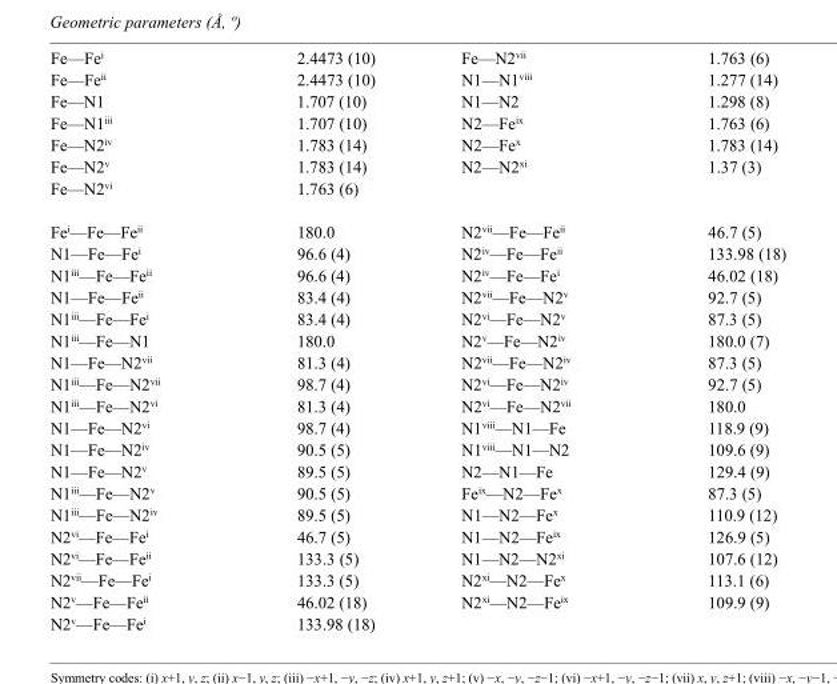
<table><tbody><tr><td>Fe—Fe<sup>i</sup></td><td>2.4473 (10)</td><td>Fe—N2<sup>vii</sup></td><td>1.763 (6)</td></tr><tr><td>Fe—Fe<sup>ii</sup></td><td>2.4473 (10)</td><td>N1—N1<sup>viii</sup></td><td>1.277 (14)</td></tr><tr><td>Fe—N1</td><td>1.707 (10)</td><td>N1—N2</td><td>1.298 (8)</td></tr><tr><td>Fe—N1<sup>iii</sup></td><td>1.707 (10)</td><td>N2—Fe<sup>ix</sup></td><td>1.763 (6)</td></tr><tr><td>Fe—N2<sup>iv</sup></td><td>1.783 (14)</td><td>N2—Fe<sup>x</sup></td><td>1.783 (14)</td></tr><tr><td>Fe—N2<sup>v</sup></td><td>1.783 (14)</td><td>N2—N2<sup>xi</sup></td><td>1.37 (3)</td></tr><tr><td>Fe—N2<sup>vi</sup></td><td>1.763 (6)</td><td></td><td></td></tr><tr><td>Fe<sup>i</sup>—Fe—Fe<sup>ii</sup></td><td>180.0</td><td>N2<sup>vii</sup>—Fe—Fe<sup>ii</sup></td><td>46.7 (5)</td></tr><tr><td>N1—Fe—Fe<sup>i</sup></td><td>96.6 (4)</td><td>N2<sup>iv</sup>—Fe—Fe<sup>ii</sup></td><td>133.98 (18)</td></tr><tr><td>N1<sup>iii</sup>—Fe—Fe<sup>ii</sup></td><td>96.6 (4)</td><td>N2<sup>iv</sup>—Fe—Fe<sup>i</sup></td><td>46.02 (18)</td></tr><tr><td>N1—Fe—Fe<sup>ii</sup></td><td>83.4 (4)</td><td>N2<sup>vii</sup>—Fe—N2<sup>v</sup></td><td>92.7 (5)</td></tr><tr><td>N1<sup>iii</sup>—Fe—Fe<sup>i</sup></td><td>83.4 (4)</td><td>N2<sup>vi</sup>—Fe—N2<sup>v</sup></td><td>87.3 (5)</td></tr><tr><td>N1<sup>iii</sup>—Fe—N1</td><td>180.0</td><td>N2<sup>v</sup>—Fe—N2<sup>iv</sup></td><td>180.0 (7)</td></tr><tr><td>N1—Fe—N2<sup>vii</sup></td><td>81.3 (4)</td><td>N2<sup>vii</sup>—Fe—N2<sup>iv</sup></td><td>87.3 (5)</td></tr><tr><td>N1<sup>iii</sup>—Fe—N2<sup>vii</sup></td><td>98.7 (4)</td><td>N2<sup>vi</sup>—Fe—N2<sup>iv</sup></td><td>92.7 (5)</td></tr><tr><td>N1<sup>iii</sup>—Fe—N2<sup>vi</sup></td><td>81.3 (4)</td><td>N2<sup>vi</sup>—Fe—N2<sup>vii</sup></td><td>180.0</td></tr><tr><td>N1—Fe—N2<sup>vi</sup></td><td>98.7 (4)</td><td>N1<sup>viii</sup>—N1—Fe</td><td>118.9 (9)</td></tr><tr><td>N1—Fe—N2<sup>iv</sup></td><td>90.5 (5)</td><td>N1<sup>viii</sup>—N1—N2</td><td>109.6 (9)</td></tr><tr><td>N1—Fe—N2<sup>v</sup></td><td>89.5 (5)</td><td>N2—N1—Fe</td><td>129.4 (9)</td></tr><tr><td>N1<sup>iii</sup>—Fe—N2<sup>v</sup></td><td>90.5 (5)</td><td>Fe<sup>ix</sup>—N2—Fe<sup>x</sup></td><td>87.3 (5)</td></tr><tr><td>N1<sup>iii</sup>—Fe—N2<sup>iv</sup></td><td>89.5 (5)</td><td>N1—N2—Fe<sup>x</sup></td><td>110.9 (12)</td></tr><tr><td>N2<sup>vi</sup>—Fe—Fe<sup>i</sup></td><td>46.7 (5)</td><td>N1—N2—Fe<sup>ix</sup></td><td>126.9 (5)</td></tr><tr><td>N2<sup>vi</sup>—Fe—Fe<sup>ii</sup></td><td>133.3 (5)</td><td>N1—N2—N2<sup>xi</sup></td><td>107.6 (12)</td></tr><tr><td>N2<sup>vii</sup>—Fe—Fe<sup>i</sup></td><td>133.3 (5)</td><td>N2<sup>xi</sup>—N2—Fe<sup>x</sup></td><td>113.1 (6)</td></tr><tr><td>N2<sup>v</sup>—Fe—Fe<sup>ii</sup></td><td>46.02 (18)</td><td>N2<sup>xi</sup>—N2—Fe<sup>ix</sup></td><td>109.9 (9)</td></tr><tr><td>N2<sup>v</sup>—Fe—Fe<sup>i</sup></td><td>133.98 (18)</td><td></td><td></td></tr></tbody></table>